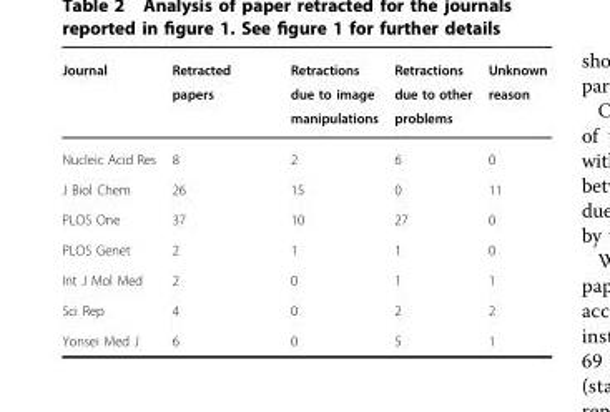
<table><thead><tr><td>Journal</td><td>Retracted papers</td><td>Retractions due to image manipulations</td><td>Retractions due to other problems</td><td>Unknown reason</td></tr></thead><tbody><tr><td>Nucleic Acid Res</td><td>8</td><td>2</td><td>6</td><td>0</td></tr><tr><td>J Biol Chem</td><td>26</td><td>15</td><td>0</td><td>11</td></tr><tr><td>PLOS One</td><td>37</td><td>10</td><td>27</td><td>0</td></tr><tr><td>PLOS Genet</td><td>2</td><td>1</td><td>1</td><td>0</td></tr><tr><td>Int J Mol Med</td><td>2</td><td>0</td><td>1</td><td>1</td></tr><tr><td>Sci Rep</td><td>4</td><td>0</td><td>2</td><td>2</td></tr><tr><td>Yonsei Med J</td><td>6</td><td>0</td><td>5</td><td>1</td></tr></tbody></table>